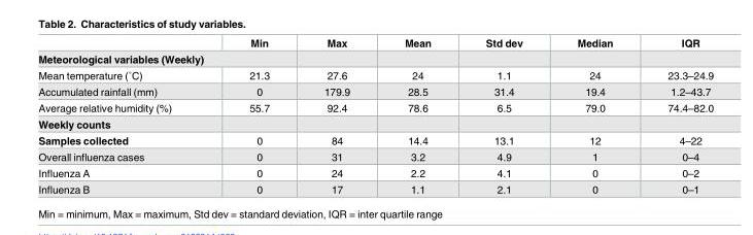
<table><thead><tr><td></td><td>Min</td><td>Max</td><td>Mean</td><td>Std dev</td><td>Median</td><td>IQR</td></tr></thead><tbody><tr><td colspan="7">Meteorological variables (Weekly)</td></tr><tr><td>Mean temperature (˚C)</td><td>21.3</td><td>27.6</td><td>24</td><td>1.1</td><td>24</td><td>23.3–24.9</td></tr><tr><td>Accumulated rainfall (mm)</td><td>0</td><td>179.9</td><td>28.5</td><td>31.4</td><td>19.4</td><td>1.2–43.7</td></tr><tr><td>Average relative humidity (%)</td><td>55.7</td><td>92.4</td><td>78.6</td><td>6.5</td><td>79.0</td><td>74.4–82.0</td></tr><tr><td colspan="7">Weekly counts</td></tr><tr><td>Samples collected</td><td>0</td><td>84</td><td>14.4</td><td>13.1</td><td>12</td><td>4–22</td></tr><tr><td>Overall influenza cases</td><td>0</td><td>31</td><td>3.2</td><td>4.9</td><td>1</td><td>0–4</td></tr><tr><td>Influenza A</td><td>0</td><td>24</td><td>2.2</td><td>4.1</td><td>0</td><td>0–2</td></tr><tr><td>Influenza B</td><td>0</td><td>17</td><td>1.1</td><td>2.1</td><td>0</td><td>0–1</td></tr></tbody></table>